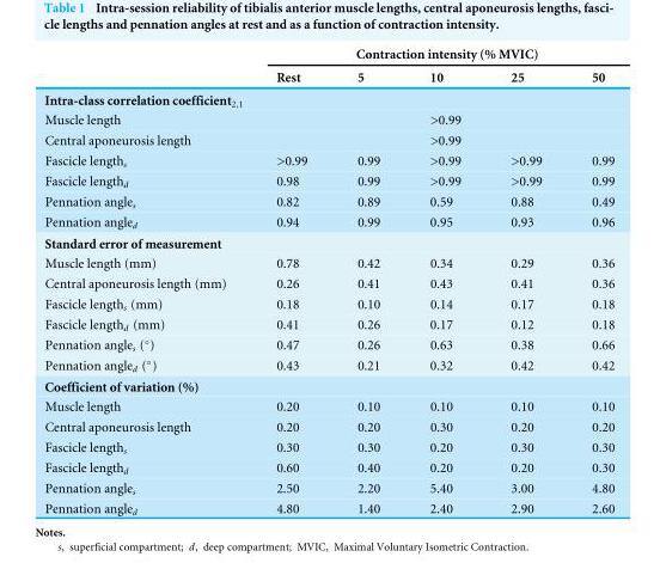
<table><thead><tr><td rowspan="2"></td><td colspan="5">Contraction intensity (% MVIC)</td></tr><tr><td>Rest</td><td>5</td><td>10</td><td>25</td><td>50</td></tr></thead><tbody><tr><td colspan="6">Intra-class correlation coefficient<sub>2,1</sub></td></tr><tr><td>Muscle length</td><td colspan="5">&gt;0.99</td></tr><tr><td>Central aponeurosis length</td><td colspan="5">&gt;0.99</td></tr><tr><td>Fascicle length<sub>s</sub></td><td>&gt;0.99</td><td>0.99</td><td>&gt;0.99</td><td>&gt;0.99</td><td>0.99</td></tr><tr><td>Fascicle length<sub>d</sub></td><td>0.98</td><td>0.99</td><td>&gt;0.99</td><td>&gt;0.99</td><td>0.99</td></tr><tr><td>Pennation angle<sub>s</sub></td><td>0.82</td><td>0.89</td><td>0.59</td><td>0.88</td><td>0.49</td></tr><tr><td>Pennation angle<sub>d</sub></td><td>0.94</td><td>0.99</td><td>0.95</td><td>0.93</td><td>0.96</td></tr><tr><td colspan="6">Standard error of measurement</td></tr><tr><td>Muscle length (mm)</td><td>0.78</td><td>0.42</td><td>0.34</td><td>0.29</td><td>0.36</td></tr><tr><td>Central aponeurosis length (mm)</td><td>0.26</td><td>0.41</td><td>0.43</td><td>0.41</td><td>0.36</td></tr><tr><td>Fascicle length<sub>s</sub> (mm)</td><td>0.18</td><td>0.10</td><td>0.14</td><td>0.17</td><td>0.18</td></tr><tr><td>Fascicle length<sub>d</sub> (mm)</td><td>0.41</td><td>0.26</td><td>0.17</td><td>0.12</td><td>0.18</td></tr><tr><td>Pennation angles (◦)</td><td>0.47</td><td>0.26</td><td>0.63</td><td>0.38</td><td>0.66</td></tr><tr><td>Pennation angled (◦)</td><td>0.43</td><td>0.21</td><td>0.32</td><td>0.42</td><td>0.42</td></tr><tr><td colspan="6">Coefficient of variation (%)</td></tr><tr><td>Muscle length</td><td>0.20</td><td>0.10</td><td>0.10</td><td>0.10</td><td>0.10</td></tr><tr><td>Central aponeurosis length</td><td>0.20</td><td>0.20</td><td>0.30</td><td>0.20</td><td>0.20</td></tr><tr><td>Fascicle length<sub>s</sub></td><td>0.30</td><td>0.30</td><td>0.20</td><td>0.30</td><td>0.30</td></tr><tr><td>Fascicle length<sub>d</sub></td><td>0.60</td><td>0.40</td><td>0.20</td><td>0.20</td><td>0.30</td></tr><tr><td>Pennation angle<sub>s</sub></td><td>2.50</td><td>2.20</td><td>5.40</td><td>3.00</td><td>4.80</td></tr><tr><td>Pennation angle<sub>d</sub></td><td>4.80</td><td>1.40</td><td>2.40</td><td>2.90</td><td>2.60</td></tr></tbody></table>